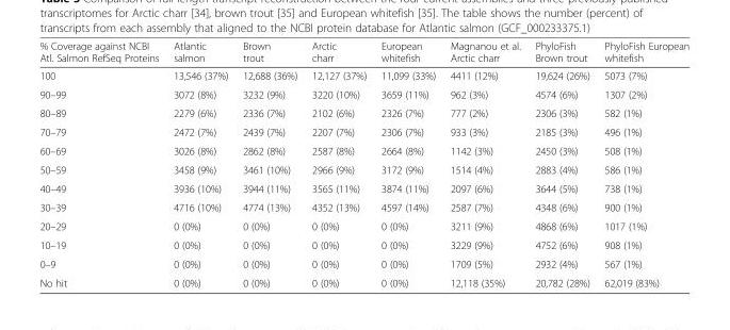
<table><thead><tr><td>% Coverage against NCBI Atl. Salmon RefSeq Proteins</td><td>Atlantic salmon</td><td>Brown trout</td><td>Arctic charr</td><td>European whitefish</td><td>Magnanou et al. Arctic charr</td><td>PhyloFish Brown trout</td><td>PhyloFish European whitefish</td></tr></thead><tbody><tr><td>100</td><td>13,546 (37%)</td><td>12,688 (36%)</td><td>12,127 (37%)</td><td>11,099 (33%)</td><td>4411 (12%)</td><td>19,624 (26%)</td><td>5073 (7%)</td></tr><tr><td>90–99</td><td>3072 (8%)</td><td>3232 (9%)</td><td>3220 (10%)</td><td>3659 (11%)</td><td>962 (3%)</td><td>4574 (6%)</td><td>1307 (2%)</td></tr><tr><td>80–89</td><td>2279 (6%)</td><td>2336 (7%)</td><td>2102 (6%)</td><td>2326 (7%)</td><td>777 (2%)</td><td>2306 (3%)</td><td>582 (1%)</td></tr><tr><td>70–79</td><td>2472 (7%)</td><td>2439 (7%)</td><td>2207 (7%)</td><td>2306 (7%)</td><td>933 (3%)</td><td>2185 (3%)</td><td>496 (1%)</td></tr><tr><td>60–69</td><td>3026 (8%)</td><td>2862 (8%)</td><td>2587 (8%)</td><td>2664 (8%)</td><td>1142 (3%)</td><td>2450 (3%)</td><td>508 (1%)</td></tr><tr><td>50–59</td><td>3458 (9%)</td><td>3461 (10%)</td><td>2966 (9%)</td><td>3172 (9%)</td><td>1514 (4%)</td><td>2883 (4%)</td><td>586 (1%)</td></tr><tr><td>40–49</td><td>3936 (10%)</td><td>3944 (11%)</td><td>3565 (11%)</td><td>3874 (11%)</td><td>2097 (6%)</td><td>3644 (5%)</td><td>738 (1%)</td></tr><tr><td>30–39</td><td>4716 (10%)</td><td>4774 (13%)</td><td>4352 (13%)</td><td>4597 (14%)</td><td>2587 (7%)</td><td>4348 (6%)</td><td>900 (1%)</td></tr><tr><td>20–29</td><td>0 (0%)</td><td>0 (0%)</td><td>0 (0%)</td><td>0 (0%)</td><td>3211 (9%)</td><td>4868 (6%)</td><td>1017 (1%)</td></tr><tr><td>10–19</td><td>0 (0%)</td><td>0 (0%)</td><td>0 (0%)</td><td>0 (0%)</td><td>3229 (9%)</td><td>4752 (6%)</td><td>908 (1%)</td></tr><tr><td>0–9</td><td>0 (0%)</td><td>0 (0%)</td><td>0 (0%)</td><td>0 (0%)</td><td>1709 (5%)</td><td>2932 (4%)</td><td>567 (1%)</td></tr><tr><td>No hit</td><td>0 (0%)</td><td>0 (0%)</td><td>0 (0%)</td><td>0 (0%)</td><td>12,118 (35%)</td><td>20,782 (28%)</td><td>62,019 (83%)</td></tr></tbody></table>